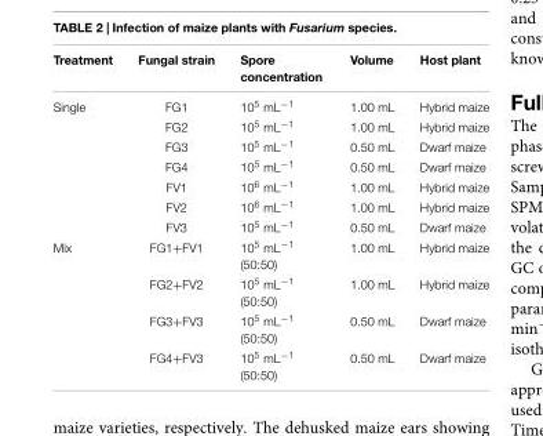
<table><thead><tr><td>Treatment</td><td>Fungal strain</td><td>Spore concentration</td><td>Volume</td><td>Host plant</td></tr></thead><tbody><tr><td rowspan="7">Single</td><td>FG1</td><td>10<sup>5</sup> mL<sup>−1</sup></td><td>1.00 mL</td><td>Hybrid maize</td></tr><tr><td>FG2</td><td>10<sup>5</sup> mL<sup>−1</sup></td><td>1.00 mL</td><td>Hybrid maize</td></tr><tr><td>FG3</td><td>10<sup>5</sup> mL<sup>−1</sup></td><td>0.50 mL</td><td>Dwarf maize</td></tr><tr><td>FG4</td><td>10<sup>5</sup> mL<sup>−1</sup></td><td>0.50 mL</td><td>Dwarf maize</td></tr><tr><td>FV1</td><td>10<sup>6</sup> mL<sup>−1</sup></td><td>1.00 mL</td><td>Hybrid maize</td></tr><tr><td>FV2</td><td>10<sup>6</sup> mL<sup>−1</sup></td><td>1.00 mL</td><td>Hybrid maize</td></tr><tr><td>FV3</td><td>10<sup>5</sup> mL<sup>−1</sup></td><td>0.50 mL</td><td>Dwarf maize</td></tr><tr><td rowspan="4">Mix</td><td>FG1+FV1</td><td>10<sup>5</sup> mL<sup>−1</sup> (50:50)</td><td>1.00 mL</td><td>Hybrid maize</td></tr><tr><td>FG2+FV2</td><td>10<sup>5</sup> mL<sup>−1</sup> (50:50)</td><td>1.00 mL</td><td>Hybrid maize</td></tr><tr><td>FG3+FV3</td><td>10<sup>5</sup> mL<sup>−1</sup> (50:50)</td><td>0.50 mL</td><td>Dwarf maize</td></tr><tr><td>FG4+FV3</td><td>10<sup>5</sup> mL<sup>−1</sup> (50:50)</td><td>0.50 mL</td><td>Dwarf maize</td></tr></tbody></table>